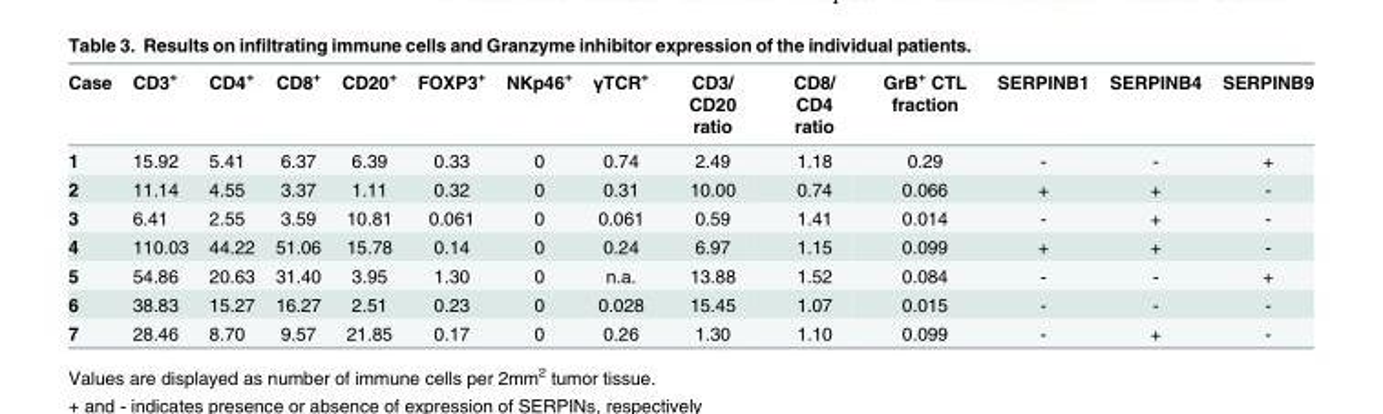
<table><thead><tr><td>Case</td><td>CD3<sup>+</sup></td><td>CD4<sup>+</sup></td><td>CD8<sup>+</sup></td><td>CD20<sup>+</sup></td><td>FOXP3<sup>+</sup></td><td>NKp46<sup>+</sup></td><td>γTCR<sup>+</sup></td><td>CD3/ CD20 ratio</td><td>CD8/ CD4 ratio</td><td>GrB<sup>+</sup> CTL fraction</td><td>SERPINB1</td><td>SERPINB4</td><td>SERPINB9</td></tr></thead><tbody><tr><td>1</td><td>15.92</td><td>5.41</td><td>6.37</td><td>6.39</td><td>0.33</td><td>0</td><td>0.74</td><td>2.49</td><td>1.18</td><td>0.29</td><td>-</td><td>-</td><td>+</td></tr><tr><td>2</td><td>11.14</td><td>4.55</td><td>3.37</td><td>1.11</td><td>0.32</td><td>0</td><td>0.31</td><td>10.00</td><td>0.74</td><td>0.066</td><td>+</td><td>+</td><td>-</td></tr><tr><td>3</td><td>6.41</td><td>2.55</td><td>3.59</td><td>10.81</td><td>0.061</td><td>0</td><td>0.061</td><td>0.59</td><td>1.41</td><td>0.014</td><td>-</td><td>+</td><td>-</td></tr><tr><td>4</td><td>110.03</td><td>44.22</td><td>51.06</td><td>15.78</td><td>0.14</td><td>0</td><td>0.24</td><td>6.97</td><td>1.15</td><td>0.099</td><td>+</td><td>+</td><td>-</td></tr><tr><td>5</td><td>54.86</td><td>20.63</td><td>31.40</td><td>3.95</td><td>1.30</td><td>0</td><td>n.a.</td><td>13.88</td><td>1.52</td><td>0.084</td><td>-</td><td>-</td><td>+</td></tr><tr><td>6</td><td>38.83</td><td>15.27</td><td>16.27</td><td>2.51</td><td>0.23</td><td>0</td><td>0.028</td><td>15.45</td><td>1.07</td><td>0.015</td><td>-</td><td>-</td><td>-</td></tr><tr><td>7</td><td>28.46</td><td>8.70</td><td>9.57</td><td>21.85</td><td>0.17</td><td>0</td><td>0.26</td><td>1.30</td><td>1.10</td><td>0.099</td><td>-</td><td>+</td><td>-</td></tr></tbody></table>